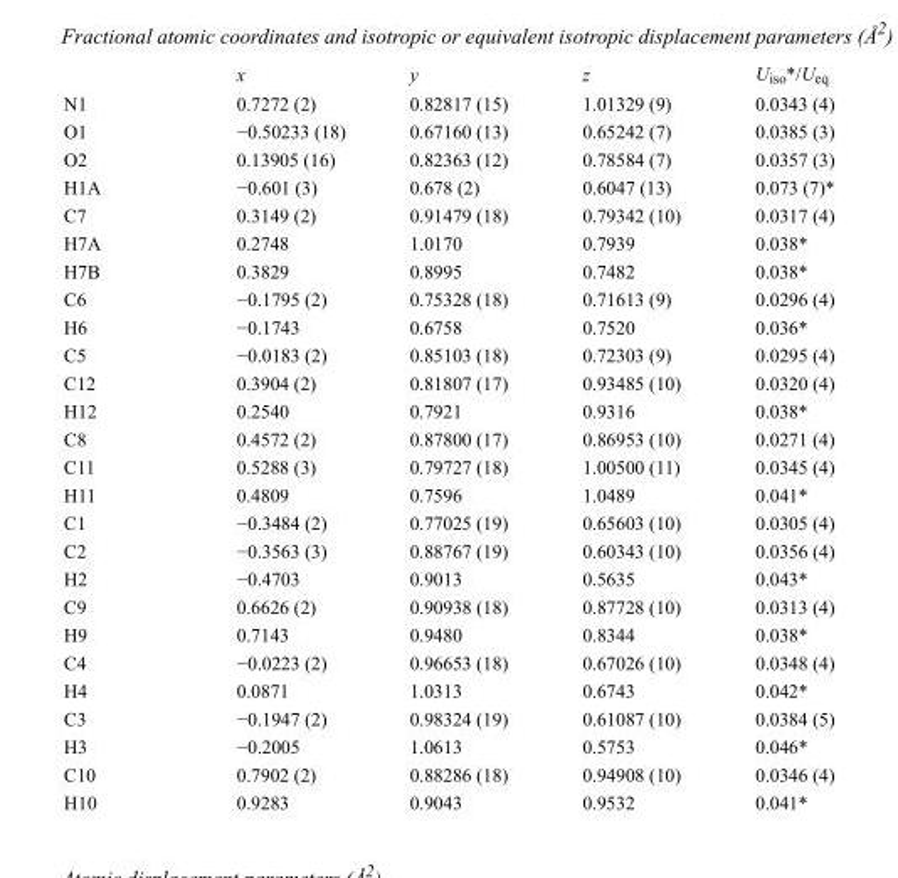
<table><thead><tr><td></td><td>x</td><td>y</td><td>z</td><td>U<sub>iso</sub>*/U<sub>eq</sub></td></tr></thead><tbody><tr><td>N1</td><td>0.7272 (2)</td><td>0.82817 (15)</td><td>1.01329 (9)</td><td>0.0343 (4)</td></tr><tr><td>O1</td><td>−0.50233 (18)</td><td>0.67160 (13)</td><td>0.65242 (7)</td><td>0.0385 (3)</td></tr><tr><td>O2</td><td>0.13905 (16)</td><td>0.82363 (12)</td><td>0.78584 (7)</td><td>0.0357 (3)</td></tr><tr><td>H1A</td><td>−0.601 (3)</td><td>0.678 (2)</td><td>0.6047 (13)</td><td>0.073 (7)*</td></tr><tr><td>C7</td><td>0.3149 (2)</td><td>0.91479 (18)</td><td>0.79342 (10)</td><td>0.0317 (4)</td></tr><tr><td>H7A</td><td>0.2748</td><td>1.0170</td><td>0.7939</td><td>0.038*</td></tr><tr><td>H7B</td><td>0.3829</td><td>0.8995</td><td>0.7482</td><td>0.038*</td></tr><tr><td>C6</td><td>−0.1795 (2)</td><td>0.75328 (18)</td><td>0.71613 (9)</td><td>0.0296 (4)</td></tr><tr><td>H6</td><td>−0.1743</td><td>0.6758</td><td>0.7520</td><td>0.036*</td></tr><tr><td>C5</td><td>−0.0183 (2)</td><td>0.85103 (18)</td><td>0.72303 (9)</td><td>0.0295 (4)</td></tr><tr><td>C12</td><td>0.3904 (2)</td><td>0.81807 (17)</td><td>0.93485 (10)</td><td>0.0320 (4)</td></tr><tr><td>H12</td><td>0.2540</td><td>0.7921</td><td>0.9316</td><td>0.038*</td></tr><tr><td>C8</td><td>0.4572 (2)</td><td>0.87800 (17)</td><td>0.86953 (10)</td><td>0.0271 (4)</td></tr><tr><td>C11</td><td>0.5288 (3)</td><td>0.79727 (18)</td><td>1.00500 (11)</td><td>0.0345 (4)</td></tr><tr><td>H11</td><td>0.4809</td><td>0.7596</td><td>1.0489</td><td>0.041*</td></tr><tr><td>C1</td><td>−0.3484 (2)</td><td>0.77025 (19)</td><td>0.65603 (10)</td><td>0.0305 (4)</td></tr><tr><td>C2</td><td>−0.3563 (3)</td><td>0.88767 (19)</td><td>0.60343 (10)</td><td>0.0356 (4)</td></tr><tr><td>H2</td><td>−0.4703</td><td>0.9013</td><td>0.5635</td><td>0.043*</td></tr><tr><td>C9</td><td>0.6626 (2)</td><td>0.90938 (18)</td><td>0.87728 (10)</td><td>0.0313 (4)</td></tr><tr><td>H9</td><td>0.7143</td><td>0.9480</td><td>0.8344</td><td>0.038*</td></tr><tr><td>C4</td><td>−0.0223 (2)</td><td>0.96653 (18)</td><td>0.67026 (10)</td><td>0.0348 (4)</td></tr><tr><td>H4</td><td>0.0871</td><td>1.0313</td><td>0.6743</td><td>0.042*</td></tr><tr><td>C3</td><td>−0.1947 (2)</td><td>0.98324 (19)</td><td>0.61087 (10)</td><td>0.0384 (5)</td></tr><tr><td>H3</td><td>−0.2005</td><td>1.0613</td><td>0.5753</td><td>0.046*</td></tr><tr><td>C10</td><td>0.7902 (2)</td><td>0.88286 (18)</td><td>0.94908 (10)</td><td>0.0346 (4)</td></tr><tr><td>H10</td><td>0.9283</td><td>0.9043</td><td>0.9532</td><td>0.041*</td></tr></tbody></table>